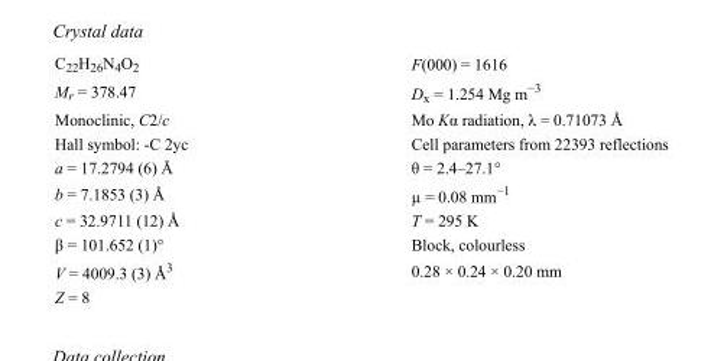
<table><tbody><tr><td>C<sub>22</sub>H<sub>26</sub>N<sub>4</sub>O<sub>2</sub></td><td>F(000) = 1616</td></tr><tr><td>M<sub>r</sub> = 378.47</td><td>D<sub>x</sub> = 1.254 Mg m<sup>−3</sup></td></tr><tr><td>Monoclinic, C2/c</td><td>Mo Kα radiation, λ = 0.71073 Å</td></tr><tr><td>Hall symbol: -C 2yc</td><td>Cell parameters from 22393 reflections</td></tr><tr><td>a = 17.2794 (6) Å</td><td>θ = 2.4–27.1°</td></tr><tr><td>b = 7.1853 (3) Å</td><td>µ = 0.08 mm<sup>−1</sup></td></tr><tr><td>c = 32.9711 (12) Å</td><td>T = 295 K</td></tr><tr><td>β = 101.652 (1)°</td><td>Block, colourless</td></tr><tr><td>V = 4009.3 (3) Å<sup>3</sup></td><td>0.28 × 0.24 × 0.20 mm</td></tr><tr><td>Z = 8</td><td></td></tr></tbody></table>